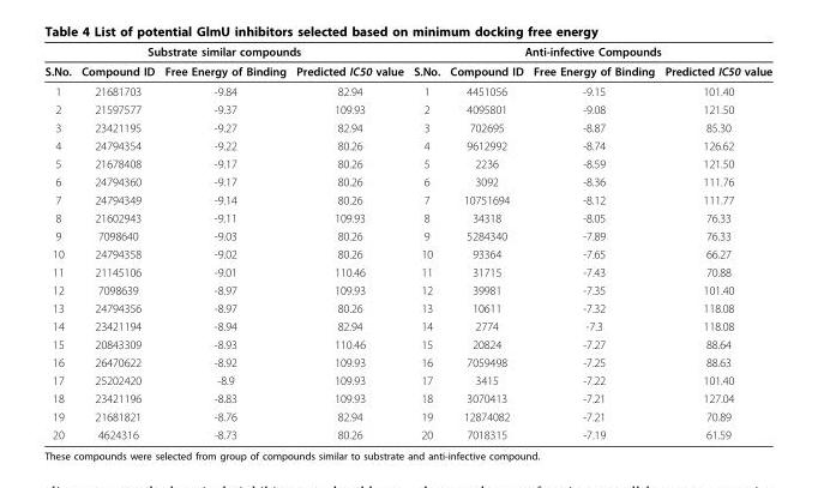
<table><thead><tr><td colspan="4">Substrate similar compounds</td><td colspan="4">Anti-infective Compounds</td></tr><tr><td>S.No.</td><td>Compound ID</td><td>Free Energy of Binding</td><td>Predicted IC50 value</td><td>S.No.</td><td>Compound ID</td><td>Free Energy of Binding</td><td>Predicted IC50 value</td></tr></thead><tbody><tr><td>1</td><td>21681703</td><td>-9.84</td><td>82.94</td><td>1</td><td>4451056</td><td>-9.15</td><td>101.40</td></tr><tr><td>2</td><td>21597577</td><td>-9.37</td><td>109.93</td><td>2</td><td>4095801</td><td>-9.08</td><td>121.50</td></tr><tr><td>3</td><td>23421195</td><td>-9.27</td><td>82.94</td><td>3</td><td>702695</td><td>-8.87</td><td>85.30</td></tr><tr><td>4</td><td>24794354</td><td>-9.22</td><td>80.26</td><td>4</td><td>9612992</td><td>-8.74</td><td>126.62</td></tr><tr><td>5</td><td>21678408</td><td>-9.17</td><td>80.26</td><td>5</td><td>2236</td><td>-8.59</td><td>121.50</td></tr><tr><td>6</td><td>24794360</td><td>-9.17</td><td>80.26</td><td>6</td><td>3092</td><td>-8.36</td><td>111.76</td></tr><tr><td>7</td><td>24794349</td><td>-9.14</td><td>80.26</td><td>7</td><td>10751694</td><td>-8.12</td><td>111.77</td></tr><tr><td>8</td><td>21602943</td><td>-9.11</td><td>109.93</td><td>8</td><td>34318</td><td>-8.05</td><td>76.33</td></tr><tr><td>9</td><td>7098640</td><td>-9.03</td><td>80.26</td><td>9</td><td>5284340</td><td>-7.89</td><td>76.33</td></tr><tr><td>10</td><td>24794358</td><td>-9.02</td><td>80.26</td><td>10</td><td>93364</td><td>-7.65</td><td>66.27</td></tr><tr><td>11</td><td>21145106</td><td>-9.01</td><td>110.46</td><td>11</td><td>31715</td><td>-7.43</td><td>70.88</td></tr><tr><td>12</td><td>7098639</td><td>-8.97</td><td>109.93</td><td>12</td><td>39981</td><td>-7.35</td><td>101.40</td></tr><tr><td>13</td><td>24794356</td><td>-8.97</td><td>80.26</td><td>13</td><td>10611</td><td>-7.32</td><td>118.08</td></tr><tr><td>14</td><td>23421194</td><td>-8.94</td><td>82.94</td><td>14</td><td>2774</td><td>-7.3</td><td>118.08</td></tr><tr><td>15</td><td>20843309</td><td>-8.93</td><td>110.46</td><td>15</td><td>20824</td><td>-7.27</td><td>88.64</td></tr><tr><td>16</td><td>26470622</td><td>-8.92</td><td>109.93</td><td>16</td><td>7059498</td><td>-7.25</td><td>88.63</td></tr><tr><td>17</td><td>25202420</td><td>-8.9</td><td>109.93</td><td>17</td><td>3415</td><td>-7.22</td><td>101.40</td></tr><tr><td>18</td><td>23421196</td><td>-8.83</td><td>109.93</td><td>18</td><td>3070413</td><td>-7.21</td><td>127.04</td></tr><tr><td>19</td><td>21681821</td><td>-8.76</td><td>82.94</td><td>19</td><td>12874082</td><td>-7.21</td><td>70.89</td></tr><tr><td>20</td><td>4624316</td><td>-8.73</td><td>80.26</td><td>20</td><td>7018315</td><td>-7.19</td><td>61.59</td></tr></tbody></table>